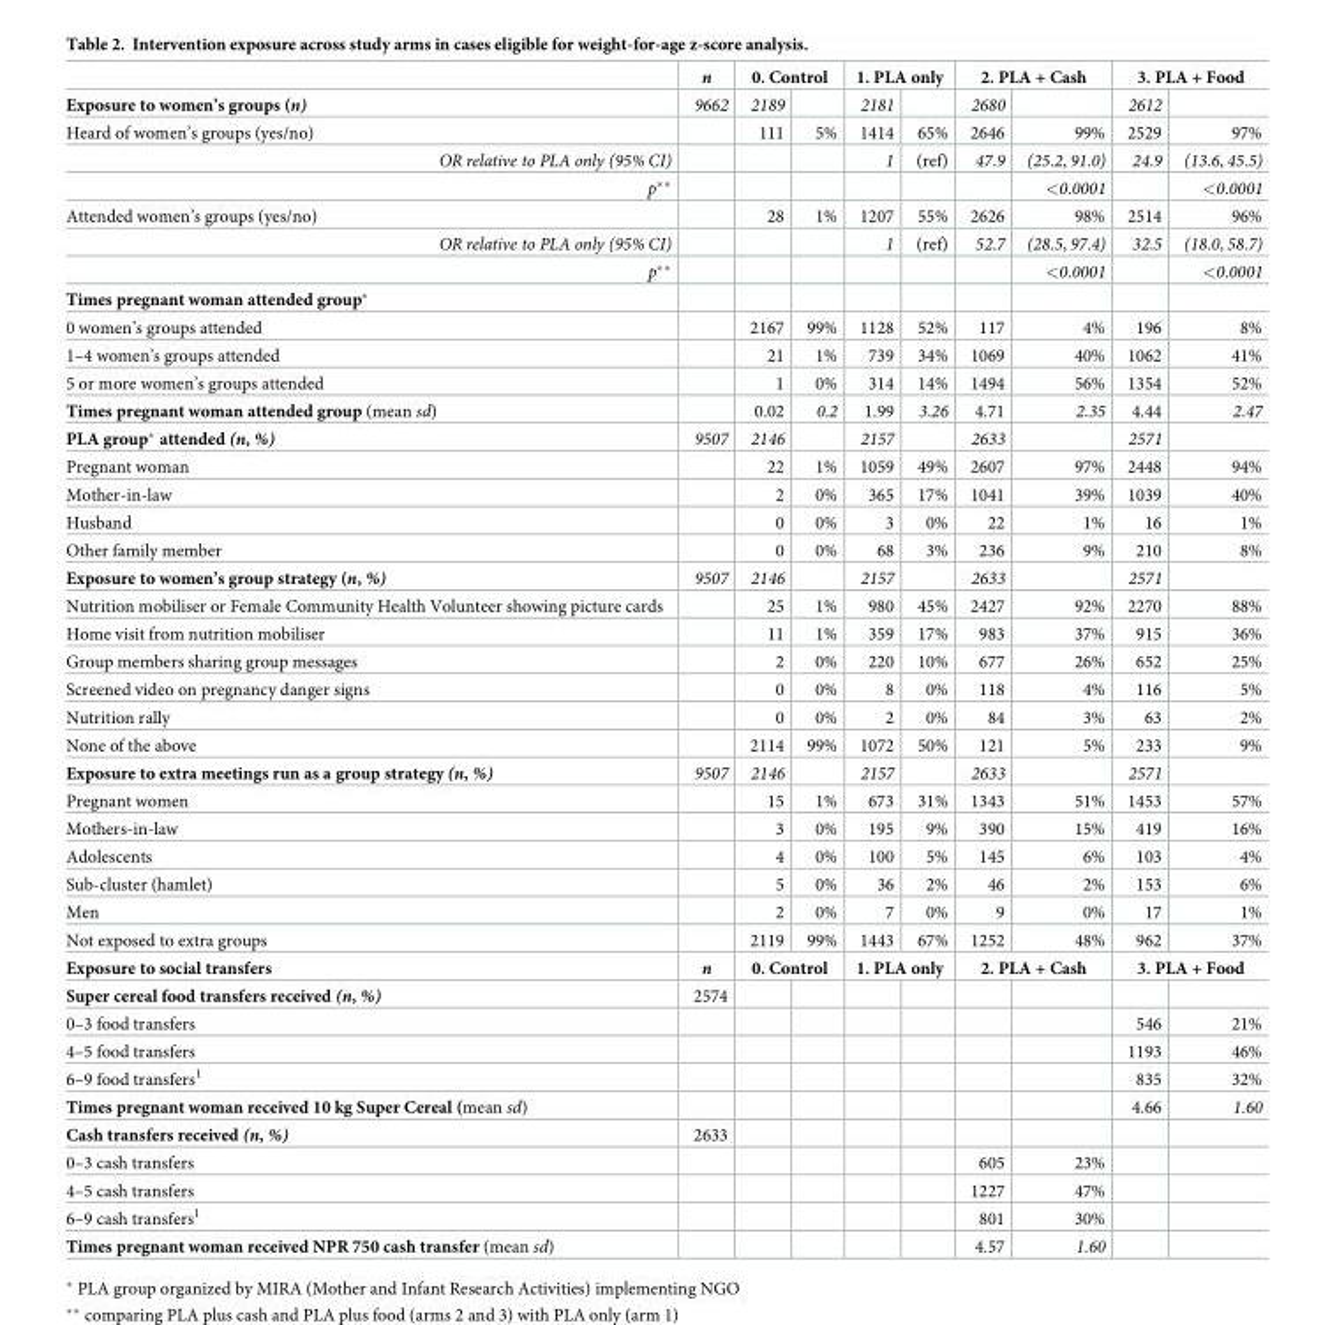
<table><thead><tr><td rowspan="2">Exposure to women’s groups (n)</td><td rowspan="2">n 9662</td><td colspan="2">0. Control</td><td colspan="2">1. PLA only</td><td colspan="2">2. PLA + Cash</td><td colspan="2">3. PLA + Food</td></tr><tr><td>2189</td><td></td><td>2181</td><td></td><td>2680</td><td></td><td>2612</td><td></td></tr></thead><tbody><tr><td>Heard of women’s groups (yes/no)</td><td></td><td>111</td><td>5%</td><td>1414</td><td>65%</td><td>2646</td><td>99%</td><td>2529</td><td>97%</td></tr><tr><td>OR relative to PLA only (95% CI)</td><td></td><td></td><td></td><td>1</td><td>(ref)</td><td>47.9</td><td>(25.2, 91.0)</td><td>24.9</td><td>(13.6, 45.5)</td></tr><tr><td>p**</td><td></td><td></td><td></td><td></td><td></td><td></td><td>&lt;0.0001</td><td></td><td>&lt;0.0001</td></tr><tr><td>Attended women’s groups (yes/no)</td><td></td><td>28</td><td>1%</td><td>1207</td><td>55%</td><td>2626</td><td>98%</td><td>2514</td><td>96%</td></tr><tr><td>OR relative to PLA only (95% CI)</td><td></td><td></td><td></td><td>1</td><td>(ref)</td><td>52.7</td><td>(28.5, 97.4)</td><td>32.5</td><td>(18.0, 58.7)</td></tr><tr><td>p**</td><td></td><td></td><td></td><td></td><td></td><td></td><td>&lt;0.0001</td><td></td><td>&lt;0.0001</td></tr><tr><td colspan="10">Times pregnant woman attended group*</td></tr><tr><td>0 women’s groups attended</td><td></td><td>2167</td><td>99%</td><td>1128</td><td>52%</td><td>117</td><td>4%</td><td>196</td><td>8%</td></tr><tr><td>1–4 women’s groups attended</td><td></td><td>21</td><td>1%</td><td>739</td><td>34%</td><td>1069</td><td>40%</td><td>1062</td><td>41%</td></tr><tr><td>5 or more women’s groups attended</td><td></td><td>1</td><td>0%</td><td>314</td><td>14%</td><td>1494</td><td>56%</td><td>1354</td><td>52%</td></tr><tr><td>Times pregnant woman attended group (mean sd)</td><td></td><td>0.02</td><td>0.2</td><td>1.99</td><td>3.26</td><td>4.71</td><td>2.35</td><td>4.44</td><td>2.47</td></tr><tr><td>PLA group* attended (n, %)</td><td>9507</td><td>2146</td><td></td><td>2157</td><td></td><td>2633</td><td></td><td>2571</td><td></td></tr><tr><td>Pregnant woman</td><td></td><td>22</td><td>1%</td><td>1059</td><td>49%</td><td>2607</td><td>97%</td><td>2448</td><td>94%</td></tr><tr><td>Mother-in-law</td><td></td><td>2</td><td>0%</td><td>365</td><td>17%</td><td>1041</td><td>39%</td><td>1039</td><td>40%</td></tr><tr><td>Husband</td><td></td><td>0</td><td>0%</td><td>3</td><td>0%</td><td>22</td><td>1%</td><td>16</td><td>1%</td></tr><tr><td>Other family member</td><td></td><td>0</td><td>0%</td><td>68</td><td>3%</td><td>236</td><td>9%</td><td>210</td><td>8%</td></tr><tr><td>Exposure to women’s group strategy (n, %)</td><td>9507</td><td>2146</td><td></td><td>2157</td><td></td><td>2633</td><td></td><td>2571</td><td></td></tr><tr><td>Nutrition mobiliser or Female Community Health Volunteer showing picture cards</td><td></td><td>25</td><td>1%</td><td>980</td><td>45%</td><td>2427</td><td>92%</td><td>2270</td><td>88%</td></tr><tr><td>Home visit from nutrition mobiliser</td><td></td><td>11</td><td>1%</td><td>359</td><td>17%</td><td>983</td><td>37%</td><td>915</td><td>36%</td></tr><tr><td>Group members sharing group messages</td><td></td><td>2</td><td>0%</td><td>220</td><td>10%</td><td>677</td><td>26%</td><td>652</td><td>25%</td></tr><tr><td>Screened video on pregnancy danger signs</td><td></td><td>0</td><td>0%</td><td>8</td><td>0%</td><td>118</td><td>4%</td><td>116</td><td>5%</td></tr><tr><td>Nutrition rally</td><td></td><td>0</td><td>0%</td><td>2</td><td>0%</td><td>84</td><td>3%</td><td>63</td><td>2%</td></tr><tr><td>None of the above</td><td></td><td>2114</td><td>99%</td><td>1072</td><td>50%</td><td>121</td><td>5%</td><td>233</td><td>9%</td></tr><tr><td>Exposure to extra meetings run as a group strategy (n, %)</td><td>9507</td><td>2146</td><td></td><td>2157</td><td></td><td>2633</td><td></td><td>2571</td><td></td></tr><tr><td>Pregnant women</td><td></td><td>15</td><td>1%</td><td>673</td><td>31%</td><td>1343</td><td>51%</td><td>1453</td><td>57%</td></tr><tr><td>Mothers-in-law</td><td></td><td>3</td><td>0%</td><td>195</td><td>9%</td><td>390</td><td>15%</td><td>419</td><td>16%</td></tr><tr><td>Adolescents</td><td></td><td>4</td><td>0%</td><td>100</td><td>5%</td><td>145</td><td>6%</td><td>103</td><td>4%</td></tr><tr><td>Sub-cluster (hamlet)</td><td></td><td>5</td><td>0%</td><td>36</td><td>2%</td><td>46</td><td>2%</td><td>153</td><td>6%</td></tr><tr><td>Men</td><td></td><td>2</td><td>0%</td><td>7</td><td>0%</td><td>9</td><td>0%</td><td>17</td><td>1%</td></tr><tr><td>Not exposed to extra groups</td><td></td><td>2119</td><td>99%</td><td>1443</td><td>67%</td><td>1252</td><td>48%</td><td>962</td><td>37%</td></tr><tr><td>Exposure to social transfers</td><td>n</td><td colspan="2">0. Control</td><td colspan="2">1. PLA only</td><td colspan="2">2. PLA + Cash</td><td colspan="2">3. PLA + Food</td></tr><tr><td>Super cereal food transfers received (n, %)</td><td>2574</td><td></td><td></td><td></td><td></td><td></td><td></td><td></td><td></td></tr><tr><td>0–3 food transfers</td><td></td><td></td><td></td><td></td><td></td><td></td><td></td><td>546</td><td>21%</td></tr><tr><td>4–5 food transfers</td><td></td><td></td><td></td><td></td><td></td><td></td><td></td><td>1193</td><td>46%</td></tr><tr><td>6–9 food transfers<sup>1</sup></td><td></td><td></td><td></td><td></td><td></td><td></td><td></td><td>835</td><td>32%</td></tr><tr><td>Times pregnant woman received 10 kg Super Cereal (mean sd)</td><td></td><td></td><td></td><td></td><td></td><td></td><td></td><td>4.66</td><td>1.60</td></tr><tr><td>Cash transfers received (n, %)</td><td>2633</td><td></td><td></td><td></td><td></td><td></td><td></td><td></td><td></td></tr><tr><td>0–3 cash transfers</td><td></td><td></td><td></td><td></td><td></td><td>605</td><td>23%</td><td></td><td></td></tr><tr><td>4–5 cash transfers</td><td></td><td></td><td></td><td></td><td></td><td>1227</td><td>47%</td><td></td><td></td></tr><tr><td>6–9 cash transfers<sup>1</sup></td><td></td><td></td><td></td><td></td><td></td><td>801</td><td>30%</td><td></td><td></td></tr><tr><td>Times pregnant woman received NPR 750 cash transfer (mean sd)</td><td></td><td></td><td></td><td></td><td></td><td>4.57</td><td>1.60</td><td></td><td></td></tr></tbody></table>